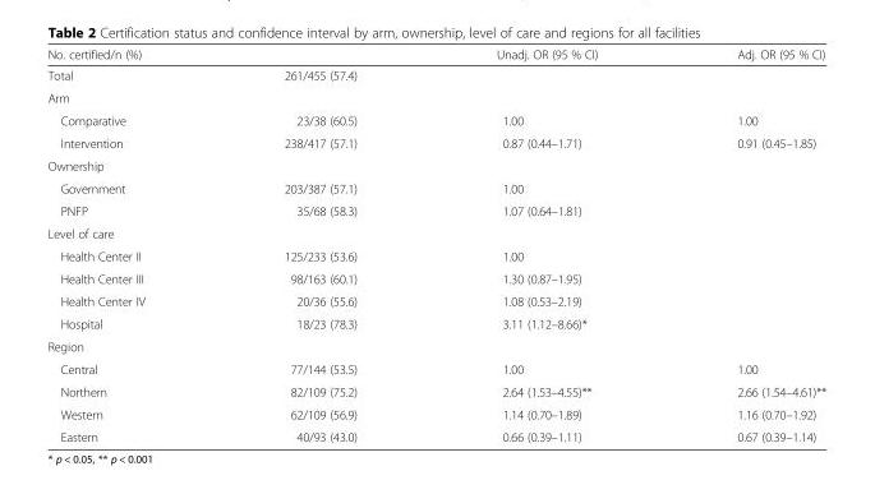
<table><thead><tr><td colspan="2">No. certified/n (%)</td><td rowspan="2">Unadj. OR (95 % CI)</td><td rowspan="2">Adj. OR (95 % CI)</td></tr><tr><td>Total</td><td>261/455 (57.4)</td></tr></thead><tbody><tr><td colspan="4">Arm</td></tr><tr><td>Comparative</td><td>23/38 (60.5)</td><td>1.00</td><td>1.00</td></tr><tr><td>Intervention</td><td>238/417 (57.1)</td><td>0.87 (0.44–1.71)</td><td>0.91 (0.45–1.85)</td></tr><tr><td colspan="4">Ownership</td></tr><tr><td>Government</td><td>203/387 (57.1)</td><td>1.00</td><td></td></tr><tr><td>PNFP</td><td>35/68 (58.3)</td><td>1.07 (0.64–1.81)</td><td></td></tr><tr><td colspan="4">Level of care</td></tr><tr><td>Health Center II</td><td>125/233 (53.6)</td><td>1.00</td><td></td></tr><tr><td>Health Center III</td><td>98/163 (60.1)</td><td>1.30 (0.87–1.95)</td><td></td></tr><tr><td>Health Center IV</td><td>20/36 (55.6)</td><td>1.08 (0.53–2.19)</td><td></td></tr><tr><td>Hospital</td><td>18/23 (78.3)</td><td>3.11 (1.12–8.66)*</td><td></td></tr><tr><td colspan="4">Region</td></tr><tr><td>Central</td><td>77/144 (53.5)</td><td>1.00</td><td>1.00</td></tr><tr><td>Northern</td><td>82/109 (75.2)</td><td>2.64 (1.53–4.55)**</td><td>2.66 (1.54–4.61)**</td></tr><tr><td>Western</td><td>62/109 (56.9)</td><td>1.14 (0.70–1.89)</td><td>1.16 (0.70–1.92)</td></tr><tr><td>Eastern</td><td>40/93 (43.0)</td><td>0.66 (0.39–1.11)</td><td>0.67 (0.39–1.14)</td></tr></tbody></table>